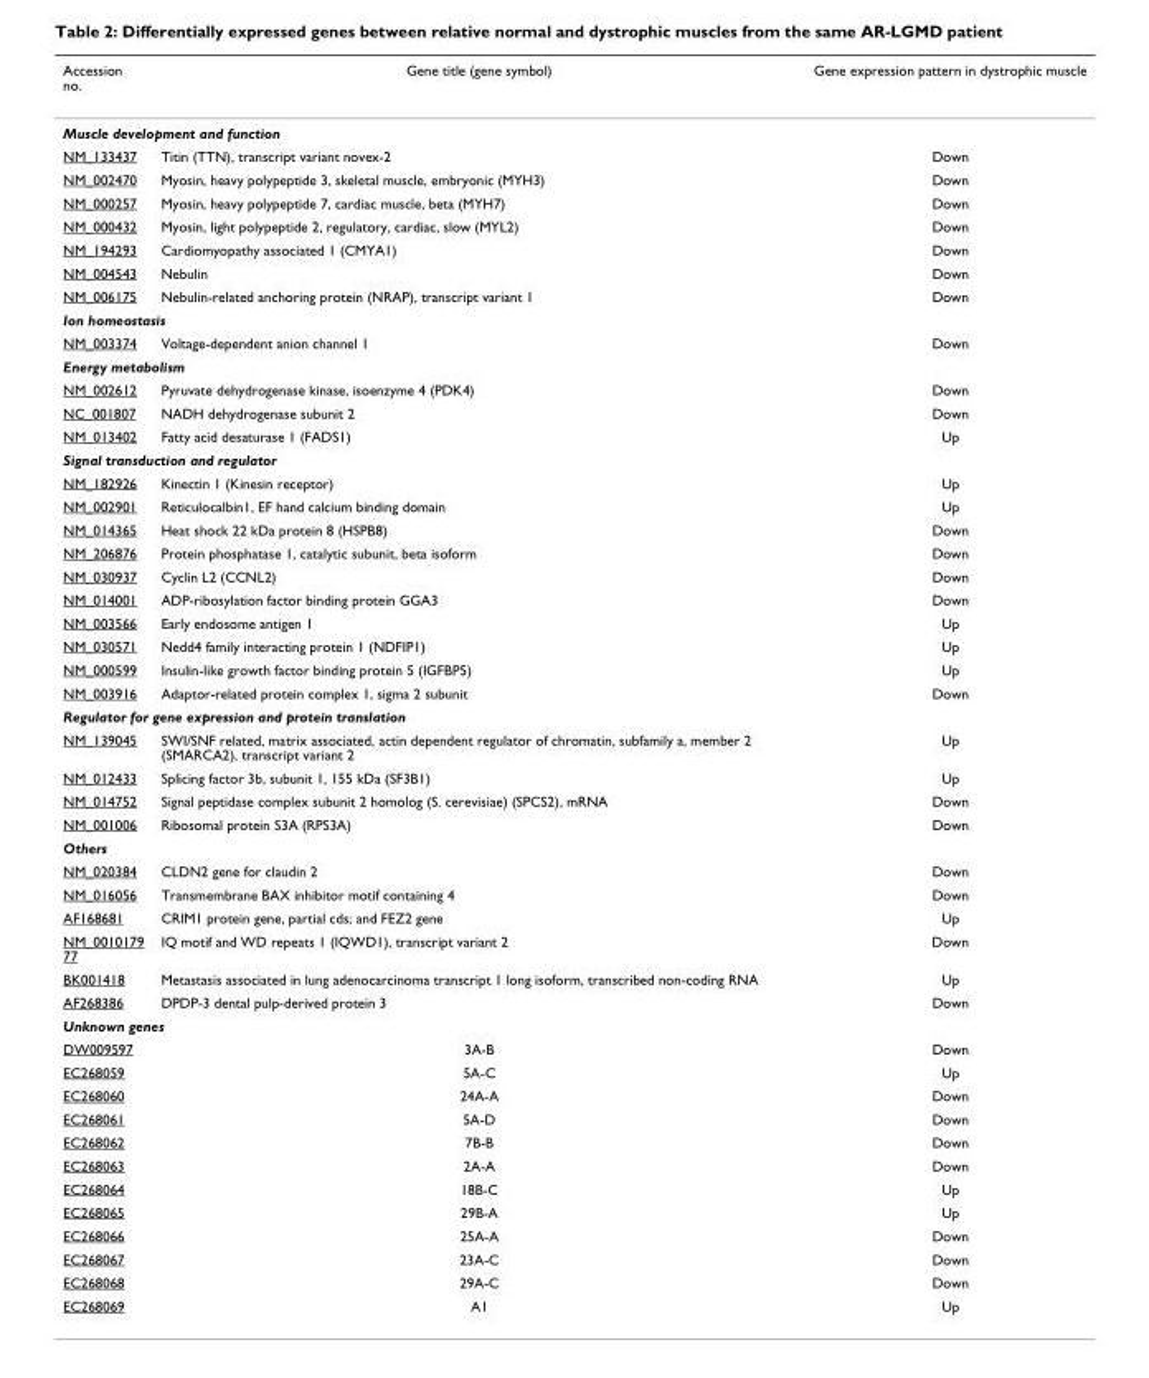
<table><thead><tr><td>Accession no.</td><td>Gene title (gene symbol)</td><td>Gene expression pattern in dystrophic muscle</td></tr></thead><tbody><tr><td colspan="3">Muscle development and function</td></tr><tr><td>NM_133437</td><td>Titin (TTN), transcript variant novex-2</td><td>Down</td></tr><tr><td>NM_002470</td><td>Myosin, heavy polypeptide 3, skeletal muscle, embryonic (MYH3)</td><td>Down</td></tr><tr><td>NM_000257</td><td>Myosin, heavy polypeptide 7, cardiac muscle, beta (MYH7)</td><td>Down</td></tr><tr><td>NM_000432</td><td>Myosin, light polypeptide 2, regulatory, cardiac, slow (MYL2)</td><td>Down</td></tr><tr><td>NM_194293</td><td>Cardiomyopathy associated 1 (CMYA1)</td><td>Down</td></tr><tr><td>NM_004543</td><td>Nebulin</td><td>Down</td></tr><tr><td>NM_006175</td><td>Nebulin-related anchoring protein (NRAP), transcript variant 1</td><td>Down</td></tr><tr><td colspan="3">Ion homeostasis</td></tr><tr><td>NM_003374</td><td>Voltage-dependent anion channel 1</td><td>Down</td></tr><tr><td colspan="3">Energy metabolism</td></tr><tr><td>NM_002612</td><td>Pyruvate dehydrogenase kinase, isoenzyme 4 (PDK4)</td><td>Down</td></tr><tr><td>NC_001807</td><td>NADH dehydrogenase subunit 2</td><td>Down</td></tr><tr><td>NM_013402</td><td>Fatty acid desaturase 1 (FADS1)</td><td>Up</td></tr><tr><td colspan="3">Signal transduction and regulator</td></tr><tr><td>NM_182926</td><td>Kinectin 1 (Kinesin receptor)</td><td>Up</td></tr><tr><td>NM_002901</td><td>Reticulocalbin1, EF hand calcium binding domain</td><td>Up</td></tr><tr><td>NM_014365</td><td>Heat shock 22 kDa protein 8 (HSPB8)</td><td>Down</td></tr><tr><td>NM_206876</td><td>Protein phosphatase 1, catalytic subunit, beta isoform</td><td>Down</td></tr><tr><td>NM_030937</td><td>Cyclin L2 (CCNL2)</td><td>Down</td></tr><tr><td>NM_014001</td><td>ADP-ribosylation factor binding protein GGA3</td><td>Down</td></tr><tr><td>NM_003566</td><td>Early endosome antigen 1</td><td>Up</td></tr><tr><td>NM_030571</td><td>Nedd4 family interacting protein 1 (NDFIP1)</td><td>Up</td></tr><tr><td>NM_000599</td><td>Insulin-like growth factor binding protein 5 (IGFBP5)</td><td>Up</td></tr><tr><td>NM_003916</td><td>Adaptor-related protein complex 1, sigma 2 subunit</td><td>Down</td></tr><tr><td colspan="3">Regulator for gene expression and protein translation</td></tr><tr><td>NM_139045</td><td>SWI/SNF related, matrix associated, actin dependent regulator of chromatin, subfamily a, member 2 (SMARCA2), transcript variant 2</td><td>Up</td></tr><tr><td>NM_012433</td><td>Splicing factor 3b, subunit 1, 155 kDa (SF3B1)</td><td>Up</td></tr><tr><td>NM_014752</td><td>Signal peptidase complex subunit 2 homolog (S. cerevisiae) (SPCS2), mRNA</td><td>Down</td></tr><tr><td>NM_001006</td><td>Ribosomal protein S3A (RPS3A)</td><td>Down</td></tr><tr><td colspan="3">Others</td></tr><tr><td>NM_020384</td><td>CLDN2 gene for claudin 2</td><td>Down</td></tr><tr><td>NM_016056</td><td>Transmembrane BAX inhibitor motif containing 4</td><td>Down</td></tr><tr><td>AF168681</td><td>CRIM1 protein gene, partial cds; and FEZ2 gene</td><td>Up</td></tr><tr><td>NM_0010179 77</td><td>IQ motif and WD repeats 1 (IQWD1), transcript variant 2</td><td>Down</td></tr><tr><td>BK001418</td><td>Metastasis associated in lung adenocarcinoma transcript 1 long isoform, transcribed non-coding RNA</td><td>Up</td></tr><tr><td>AF268386</td><td>DPDP-3 dental pulp-derived protein 3</td><td>Down</td></tr><tr><td colspan="3">Unknown genes</td></tr><tr><td>DW009597</td><td>3A-B</td><td>Down</td></tr><tr><td>EC268059</td><td>5A-C</td><td>Up</td></tr><tr><td>EC268060</td><td>24A-A</td><td>Down</td></tr><tr><td>EC268061</td><td>5A-D</td><td>Down</td></tr><tr><td>EC268062</td><td>7B-B</td><td>Down</td></tr><tr><td>EC268063</td><td>2A-A</td><td>Down</td></tr><tr><td>EC268064</td><td>18B-C</td><td>Up</td></tr><tr><td>EC268065</td><td>29B-A</td><td>Up</td></tr><tr><td>EC268066</td><td>25A-A</td><td>Down</td></tr><tr><td>EC268067</td><td>23A-C</td><td>Down</td></tr><tr><td>EC268068</td><td>29A-C</td><td>Down</td></tr><tr><td>EC268069</td><td>A1</td><td>Up</td></tr></tbody></table>